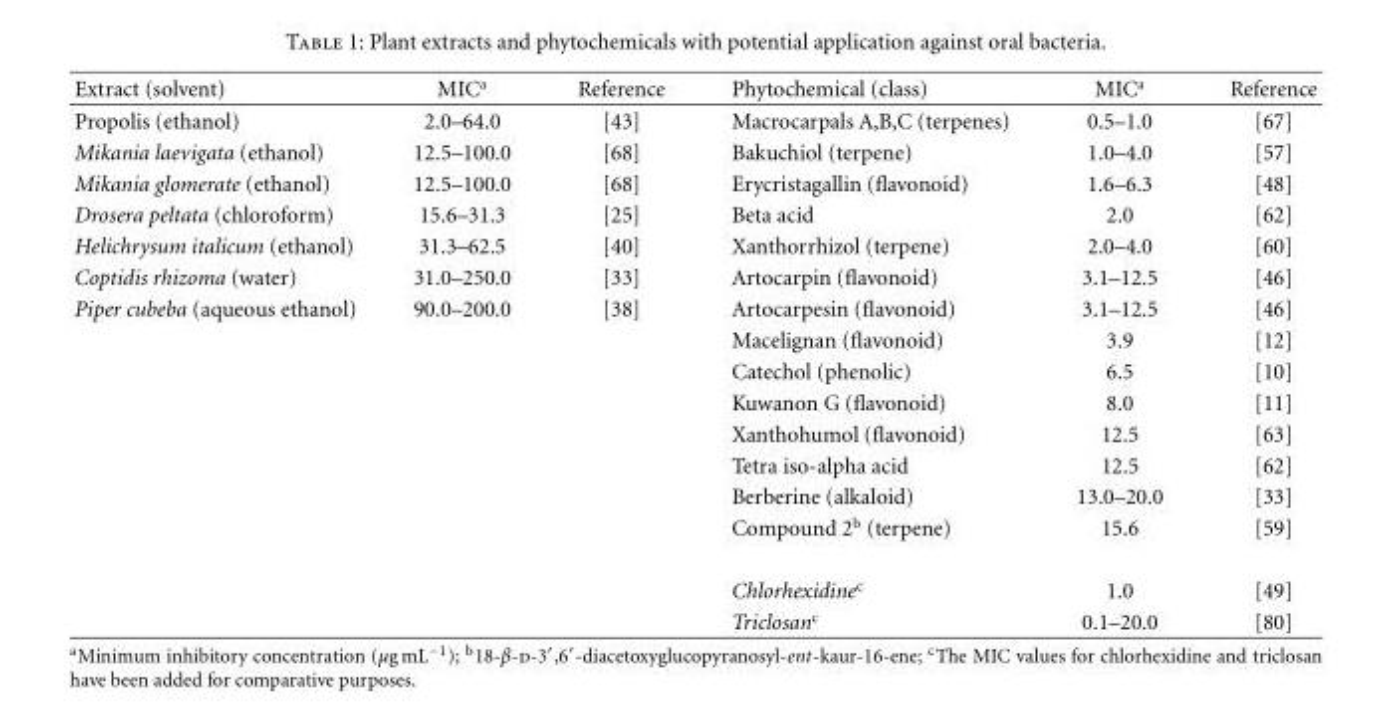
<table><thead><tr><td>Extract (solvent)</td><td>MIC<sup>a</sup></td><td>Reference</td><td>Phytochemical (class)</td><td>MIC<sup>a</sup></td><td>Reference</td></tr></thead><tbody><tr><td>Propolis (ethanol)</td><td>2.0–64.0</td><td>[43]</td><td>Macrocarpals A,B,C (terpenes)</td><td>0.5–1.0</td><td>[67]</td></tr><tr><td>Mikania laevigata (ethanol)</td><td>12.5–100.0</td><td>[68]</td><td>Bakuchiol (terpene)</td><td>1.0–4.0</td><td>[57]</td></tr><tr><td>Mikania glomerate (ethanol)</td><td>12.5–100.0</td><td>[68]</td><td>Erycristagallin (flavonoid)</td><td>1.6–6.3</td><td>[48]</td></tr><tr><td>Drosera peltata (chloroform)</td><td>15.6–31.3</td><td>[25]</td><td>Beta acid</td><td>2.0</td><td>[62]</td></tr><tr><td>Helichrysum italicum (ethanol)</td><td>31.3–62.5</td><td>[40]</td><td>Xanthorrhizol (terpene)</td><td>2.0–4.0</td><td>[60]</td></tr><tr><td>Coptidis rhizoma (water)</td><td>31.0–250.0</td><td>[33]</td><td>Artocarpin (flavonoid)</td><td>3.1–12.5</td><td>[46]</td></tr><tr><td rowspan="10">Piper cubeba (aqueous ethanol)</td><td>90.0–200.0</td><td>[38]</td><td>Artocarpesin (flavonoid)</td><td>3.1–12.5</td><td>[46]</td></tr><tr><td></td><td></td><td>Macelignan (flavonoid)</td><td>3.9</td><td>[12]</td></tr><tr><td></td><td></td><td>Catechol (phenolic)</td><td>6.5</td><td>[10]</td></tr><tr><td></td><td></td><td>Kuwanon G (flavonoid)</td><td>8.0</td><td>[11]</td></tr><tr><td></td><td></td><td>Xanthohumol (flavonoid)</td><td>12.5</td><td>[63]</td></tr><tr><td></td><td></td><td>Tetra iso-alpha acid</td><td>12.5</td><td>[62]</td></tr><tr><td></td><td></td><td>Berberine (alkaloid)</td><td>13.0–20.0</td><td>[33]</td></tr><tr><td></td><td></td><td>Compound 2<sup>b</sup> (terpene)</td><td>15.6</td><td>[59]</td></tr><tr><td></td><td></td><td>Chlorhexidine<sup>c</sup></td><td>1.0</td><td>[49]</td></tr><tr><td></td><td></td><td>Triclosan<sup>c</sup></td><td>0.1–20.0</td><td>[80]</td></tr></tbody></table>